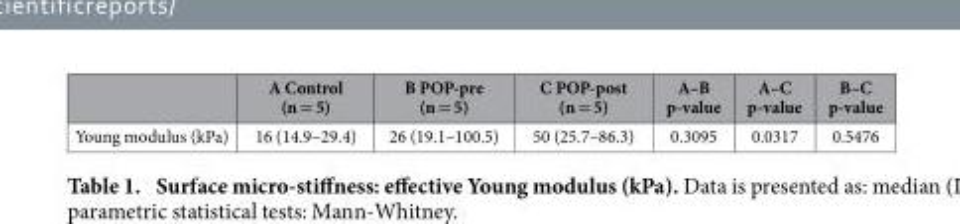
<table><thead><tr><td></td><td>A Control (n = 5)</td><td>B POP-pre (n = 5)</td><td>C POP-post (n = 5)</td><td>A–B p-value</td><td>A–C p-value</td><td>B–C p-value</td></tr></thead><tbody><tr><td>Young modulus (kPa)</td><td>16 (14.9–29.4)</td><td>26 (19.1–100.5)</td><td>50 (25.7–86.3)</td><td>0.3095</td><td>0.0317</td><td>0.5476</td></tr></tbody></table>